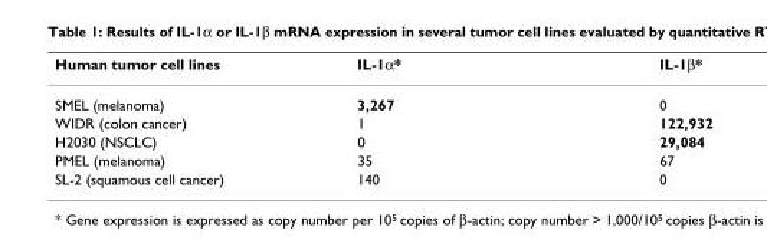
<table><thead><tr><td>Human tumor cell lines</td><td>IL-1α*</td><td>IL-1β*</td></tr></thead><tbody><tr><td>SMEL (melanoma)</td><td>3,267</td><td>0</td></tr><tr><td>WIDR (colon cancer)</td><td>1</td><td>122,932</td></tr><tr><td>H2030 (NSCLC)</td><td>0</td><td>29,084</td></tr><tr><td>PMEL (melanoma)</td><td>35</td><td>67</td></tr><tr><td>SL-2 (squamous cell cancer)</td><td>140</td><td>0</td></tr></tbody></table>